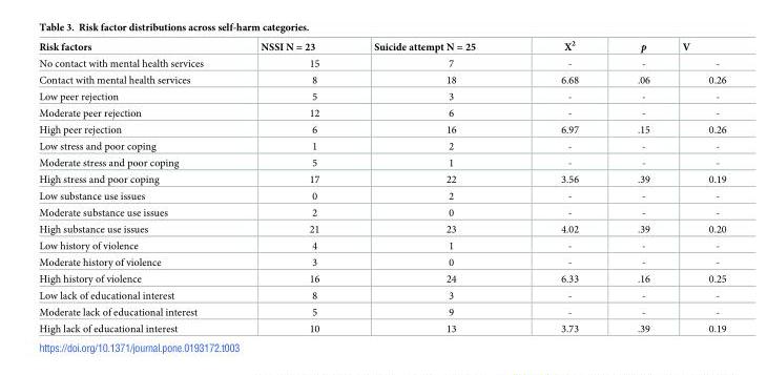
<table><thead><tr><td>Risk factors</td><td>NSSI N = 23</td><td>Suicide attempt N = 25</td><td>Χ<sup>2</sup></td><td>p</td><td>V</td></tr></thead><tbody><tr><td>No contact with mental health services</td><td>15</td><td>7</td><td>-</td><td>-</td><td>-</td></tr><tr><td>Contact with mental health services</td><td>8</td><td>18</td><td>6.68</td><td>.06</td><td>0.26</td></tr><tr><td>Low peer rejection</td><td>5</td><td>3</td><td>-</td><td>-</td><td>-</td></tr><tr><td>Moderate peer rejection</td><td>12</td><td>6</td><td>-</td><td>-</td><td>-</td></tr><tr><td>High peer rejection</td><td>6</td><td>16</td><td>6.97</td><td>.15</td><td>0.26</td></tr><tr><td>Low stress and poor coping</td><td>1</td><td>2</td><td>-</td><td>-</td><td>-</td></tr><tr><td>Moderate stress and poor coping</td><td>5</td><td>1</td><td>-</td><td>-</td><td>-</td></tr><tr><td>High stress and poor coping</td><td>17</td><td>22</td><td>3.56</td><td>.39</td><td>0.19</td></tr><tr><td>Low substance use issues</td><td>0</td><td>2</td><td>-</td><td>-</td><td>-</td></tr><tr><td>Moderate substance use issues</td><td>2</td><td>0</td><td>-</td><td>-</td><td>-</td></tr><tr><td>High substance use issues</td><td>21</td><td>23</td><td>4.02</td><td>.39</td><td>0.20</td></tr><tr><td>Low history of violence</td><td>4</td><td>1</td><td>-</td><td>-</td><td>-</td></tr><tr><td>Moderate history of violence</td><td>3</td><td>0</td><td>-</td><td>-</td><td>-</td></tr><tr><td>High history of violence</td><td>16</td><td>24</td><td>6.33</td><td>.16</td><td>0.25</td></tr><tr><td>Low lack of educational interest</td><td>8</td><td>3</td><td>-</td><td>-</td><td>-</td></tr><tr><td>Moderate lack of educational interest</td><td>5</td><td>9</td><td>-</td><td>-</td><td>-</td></tr><tr><td>High lack of educational interest</td><td>10</td><td>13</td><td>3.73</td><td>.39</td><td>0.19</td></tr></tbody></table>